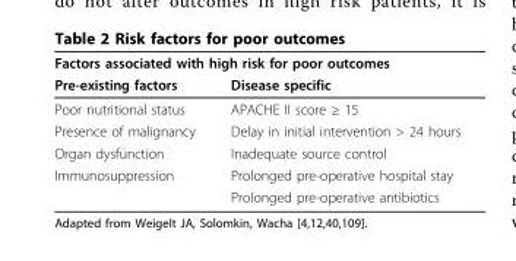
<table><thead><tr><td colspan="2">Factors associated with high risk for poor outcomes</td></tr><tr><td>Pre-existing factors</td><td>Disease specific</td></tr></thead><tbody><tr><td>Poor nutritional status</td><td>APACHE II score ≥ 15</td></tr><tr><td>Presence of malignancy</td><td>Delay in initial intervention &gt; 24 hours</td></tr><tr><td>Organ dysfunction</td><td>Inadequate source control</td></tr><tr><td rowspan="2">Immunosuppression</td><td>Prolonged pre-operative hospital stay</td></tr><tr><td>Prolonged pre-operative antibiotics</td></tr></tbody></table>